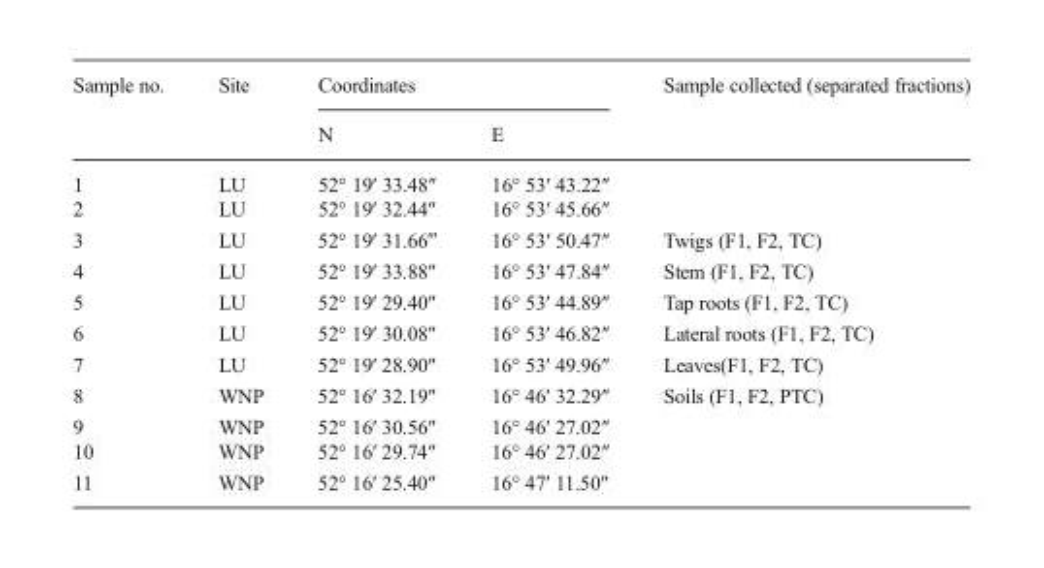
<table><thead><tr><td rowspan="2">Sample no.</td><td rowspan="2">Site</td><td colspan="2">Coordinates</td><td rowspan="2">Sample collected (separated fractions)</td></tr><tr><td>N</td><td>E</td></tr></thead><tbody><tr><td>1</td><td>LU</td><td>52° 19′ 33.48″</td><td>16° 53′ 43.22″</td><td rowspan="2"></td></tr><tr><td>2</td><td>LU</td><td>52° 19′ 32.44″</td><td>16° 53′ 45.66″</td></tr><tr><td>3</td><td>LU</td><td>52° 19′ 31.66‴</td><td>16° 53′ 50.47″</td><td>Twigs (F1, F2, TC)</td></tr><tr><td>4</td><td>LU</td><td>52° 19′ 33.88″</td><td>16° 53′ 47.84″</td><td>Stem (F1, F2, TC)</td></tr><tr><td>5</td><td>LU</td><td>52° 19′ 29.40″</td><td>16° 53′ 44.89″</td><td>Tap roots (F1, F2, TC)</td></tr><tr><td>6</td><td>LU</td><td>52° 19′ 30.08″</td><td>16° 53′ 46.82″</td><td>Lateral roots (F1, F2, TC)</td></tr><tr><td>7</td><td>LU</td><td>52° 19′ 28.90″</td><td>16° 53′ 49.96″</td><td>Leaves(F1, F2, TC)</td></tr><tr><td>8</td><td>WNP</td><td>52° 16′ 32.19″</td><td>16° 46′ 32.29″</td><td>Soils (F1, F2, PTC)</td></tr><tr><td>9</td><td>WNP</td><td>52° 16′ 30.56″</td><td>16° 46′ 27.02″</td><td rowspan="3"></td></tr><tr><td>10</td><td>WNP</td><td>52° 16′ 29.74″</td><td>16° 46′ 27.02″</td></tr><tr><td>11</td><td>WNP</td><td>52° 16′ 25.40″</td><td>16° 47′ 11.50″</td></tr></tbody></table>